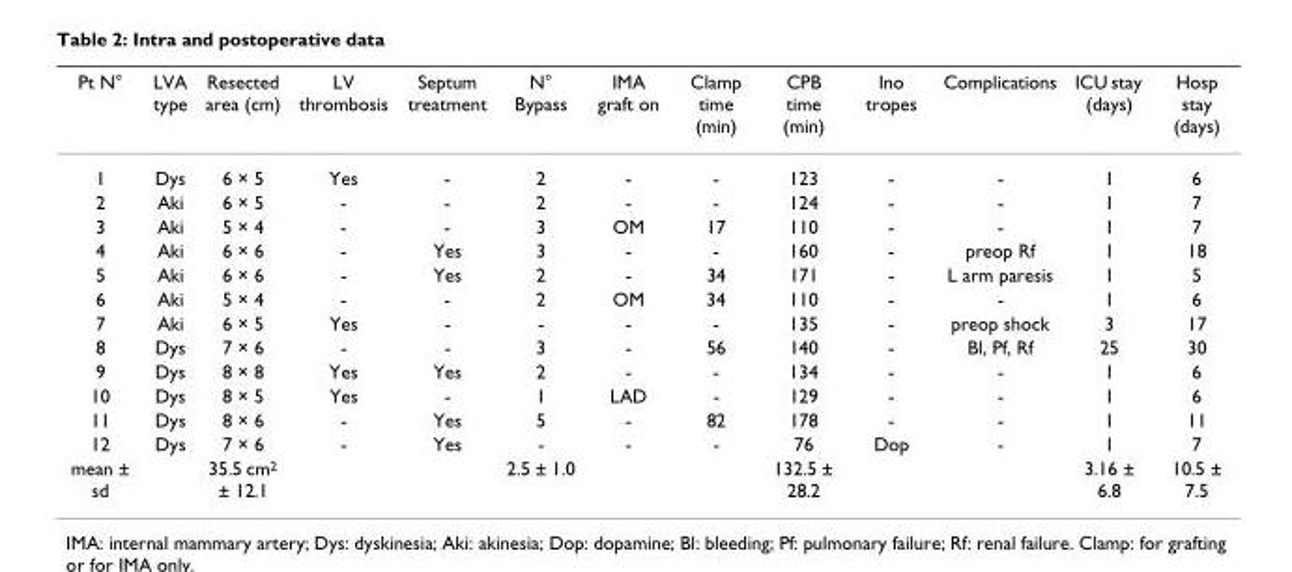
<table><thead><tr><td>Pt N°</td><td>LVA type</td><td>Resected area (cm)</td><td>LV thrombosis</td><td>Septum treatment</td><td>N° Bypass</td><td>IMA graft on</td><td>Clamp time (min)</td><td>CPB time (min)</td><td>Ino tropes</td><td>Complications</td><td>ICU stay (days)</td><td>Hosp stay (days)</td></tr></thead><tbody><tr><td>1</td><td>Dys</td><td>6 × 5</td><td>Yes</td><td>-</td><td>2</td><td>-</td><td>-</td><td>123</td><td>-</td><td>-</td><td>1</td><td>6</td></tr><tr><td>2</td><td>Aki</td><td>6 × 5</td><td>-</td><td>-</td><td>2</td><td>-</td><td>-</td><td>124</td><td>-</td><td>-</td><td>1</td><td>7</td></tr><tr><td>3</td><td>Aki</td><td>5 × 4</td><td>-</td><td>-</td><td>3</td><td>OM</td><td>17</td><td>110</td><td>-</td><td>-</td><td>1</td><td>7</td></tr><tr><td>4</td><td>Aki</td><td>6 × 6</td><td>-</td><td>Yes</td><td>3</td><td>-</td><td>-</td><td>160</td><td>-</td><td>preop Rf</td><td>1</td><td>18</td></tr><tr><td>5</td><td>Aki</td><td>6 × 6</td><td>-</td><td>Yes</td><td>2</td><td>-</td><td>34</td><td>171</td><td>-</td><td>L arm paresis</td><td>1</td><td>5</td></tr><tr><td>6</td><td>Aki</td><td>5 × 4</td><td>-</td><td>-</td><td>2</td><td>OM</td><td>34</td><td>110</td><td>-</td><td>-</td><td>1</td><td>6</td></tr><tr><td>7</td><td>Aki</td><td>6 × 5</td><td>Yes</td><td>-</td><td>-</td><td>-</td><td>-</td><td>135</td><td>-</td><td>preop shock</td><td>3</td><td>17</td></tr><tr><td>8</td><td>Dys</td><td>7 × 6</td><td>-</td><td>-</td><td>3</td><td>-</td><td>56</td><td>140</td><td>-</td><td>Bl, Pf, Rf</td><td>25</td><td>30</td></tr><tr><td>9</td><td>Dys</td><td>8 × 8</td><td>Yes</td><td>Yes</td><td>2</td><td>-</td><td>-</td><td>134</td><td>-</td><td>-</td><td>1</td><td>6</td></tr><tr><td>10</td><td>Dys</td><td>8 × 5</td><td>Yes</td><td>-</td><td>1</td><td>LAD</td><td>-</td><td>129</td><td>-</td><td>-</td><td>1</td><td>6</td></tr><tr><td>11</td><td>Dys</td><td>8 × 6</td><td>-</td><td>Yes</td><td>5</td><td>-</td><td>82</td><td>178</td><td>-</td><td>-</td><td>1</td><td>11</td></tr><tr><td>12</td><td>Dys</td><td>7 × 6</td><td>-</td><td>Yes</td><td>-</td><td>-</td><td>-</td><td>76</td><td>Dop</td><td>-</td><td>1</td><td>7</td></tr><tr><td>mean ± sd</td><td></td><td>35.5 cm<sup>2</sup> ± 12.1</td><td></td><td></td><td>2.5 ± 1.0</td><td></td><td></td><td>132.5 ± 28.2</td><td></td><td></td><td>3.16 ± 6.8</td><td>10.5 ± 7.5</td></tr></tbody></table>